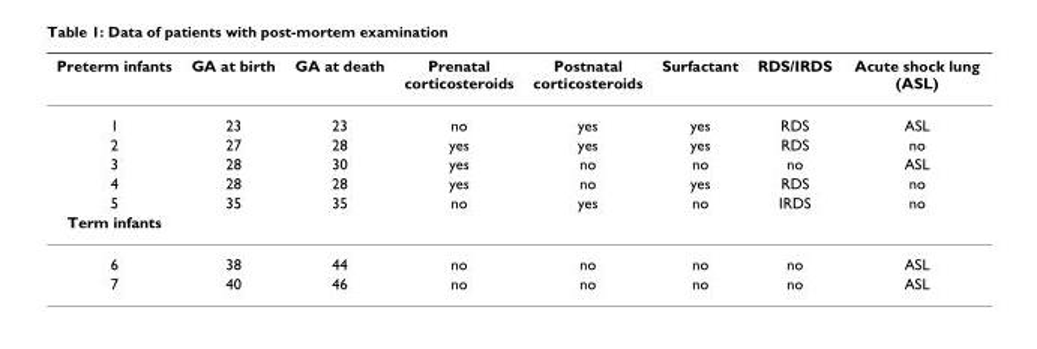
<table><thead><tr><td>Preterm infants</td><td>GA at birth</td><td>GA at death</td><td>Prenatal corticosteroids</td><td>Postnatal corticosteroids</td><td>Surfactant</td><td>RDS/IRDS</td><td>Acute shock lung (ASL)</td></tr></thead><tbody><tr><td>1</td><td>23</td><td>23</td><td>no</td><td>yes</td><td>yes</td><td>RDS</td><td>ASL</td></tr><tr><td>2</td><td>27</td><td>28</td><td>yes</td><td>yes</td><td>yes</td><td>RDS</td><td>no</td></tr><tr><td>3</td><td>28</td><td>30</td><td>yes</td><td>no</td><td>no</td><td>no</td><td>ASL</td></tr><tr><td>4</td><td>28</td><td>28</td><td>yes</td><td>no</td><td>yes</td><td>RDS</td><td>no</td></tr><tr><td>5</td><td>35</td><td>35</td><td>no</td><td>yes</td><td>no</td><td>IRDS</td><td>no</td></tr><tr><td colspan="8">Term infants</td></tr><tr><td>6</td><td>38</td><td>44</td><td>no</td><td>no</td><td>no</td><td>no</td><td>ASL</td></tr><tr><td>7</td><td>40</td><td>46</td><td>no</td><td>no</td><td>no</td><td>no</td><td>ASL</td></tr></tbody></table>